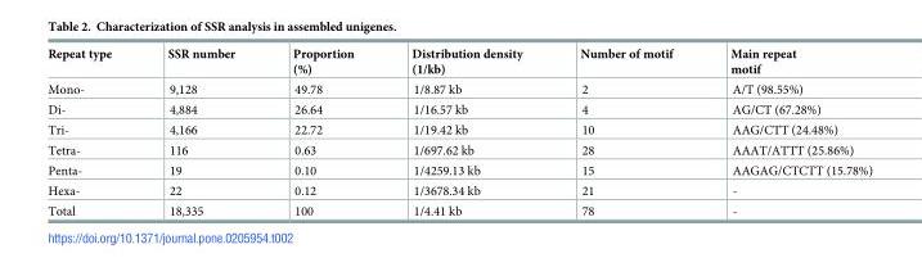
<table><thead><tr><td>Repeat type</td><td>SSR number</td><td>Proportion (%)</td><td>Distribution density (1/kb)</td><td>Number of motif</td><td>Main repeat motif</td></tr></thead><tbody><tr><td>Mono-</td><td>9,128</td><td>49.78</td><td>1/8.87 kb</td><td>2</td><td>A/T (98.55%)</td></tr><tr><td>Di-</td><td>4,884</td><td>26.64</td><td>1/16.57 kb</td><td>4</td><td>AG/CT (67.28%)</td></tr><tr><td>Tri-</td><td>4,166</td><td>22.72</td><td>1/19.42 kb</td><td>10</td><td>AAG/CTT (24.48%)</td></tr><tr><td>Tetra-</td><td>116</td><td>0.63</td><td>1/697.62 kb</td><td>28</td><td>AAAT/ATTT (25.86%)</td></tr><tr><td>Penta-</td><td>19</td><td>0.10</td><td>1/4259.13 kb</td><td>15</td><td>AAGAG/CTCTT (15.78%)</td></tr><tr><td>Hexa-</td><td>22</td><td>0.12</td><td>1/3678.34 kb</td><td>21</td><td>-</td></tr><tr><td>Total</td><td>18,335</td><td>100</td><td>1/4.41 kb</td><td>78</td><td>-</td></tr></tbody></table>